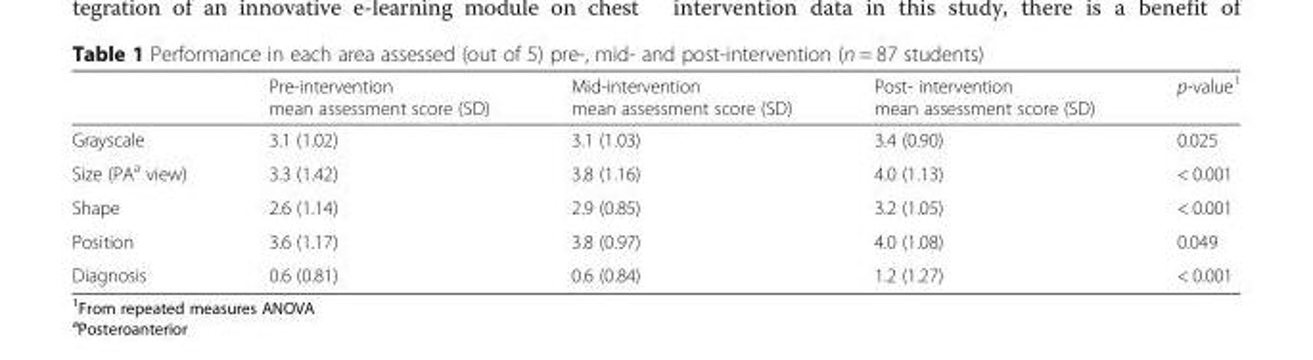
<table><thead><tr><td></td><td>Pre-intervention mean assessment score (SD)</td><td>Mid-intervention mean assessment score (SD)</td><td>Post- intervention mean assessment score (SD)</td><td>p-value<sup>1</sup></td></tr></thead><tbody><tr><td>Grayscale</td><td>3.1 (1.02)</td><td>3.1 (1.03)</td><td>3.4 (0.90)</td><td>0.025</td></tr><tr><td>Size (PA<sup>a</sup> view)</td><td>3.3 (1.42)</td><td>3.8 (1.16)</td><td>4.0 (1.13)</td><td>&lt; 0.001</td></tr><tr><td>Shape</td><td>2.6 (1.14)</td><td>2.9 (0.85)</td><td>3.2 (1.05)</td><td>&lt; 0.001</td></tr><tr><td>Position</td><td>3.6 (1.17)</td><td>3.8 (0.97)</td><td>4.0 (1.08)</td><td>0.049</td></tr><tr><td>Diagnosis</td><td>0.6 (0.81)</td><td>0.6 (0.84)</td><td>1.2 (1.27)</td><td>&lt; 0.001</td></tr></tbody></table>